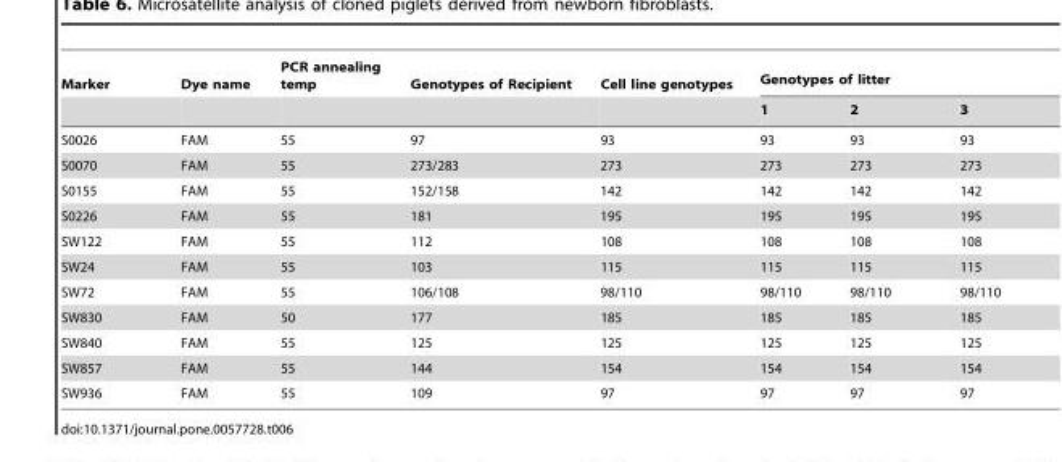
<table><thead><tr><td rowspan="2">Marker</td><td rowspan="2">Dye name</td><td rowspan="2">PCR annealing temp</td><td rowspan="2">Genotypes of Recipient</td><td rowspan="2">Cell line genotypes</td><td colspan="3">Genotypes of litter</td></tr><tr><td>1</td><td>2</td><td>3</td></tr></thead><tbody><tr><td>S0026</td><td>FAM</td><td>55</td><td>97</td><td>93</td><td>93</td><td>93</td><td>93</td></tr><tr><td>S0070</td><td>FAM</td><td>55</td><td>273/283</td><td>273</td><td>273</td><td>273</td><td>273</td></tr><tr><td>S0155</td><td>FAM</td><td>55</td><td>152/158</td><td>142</td><td>142</td><td>142</td><td>142</td></tr><tr><td>S0226</td><td>FAM</td><td>55</td><td>181</td><td>195</td><td>195</td><td>195</td><td>195</td></tr><tr><td>SW122</td><td>FAM</td><td>55</td><td>112</td><td>108</td><td>108</td><td>108</td><td>108</td></tr><tr><td>SW24</td><td>FAM</td><td>55</td><td>103</td><td>115</td><td>115</td><td>115</td><td>115</td></tr><tr><td>SW72</td><td>FAM</td><td>55</td><td>106/108</td><td>98/110</td><td>98/110</td><td>98/110</td><td>98/110</td></tr><tr><td>SW830</td><td>FAM</td><td>50</td><td>177</td><td>185</td><td>185</td><td>185</td><td>185</td></tr><tr><td>SW840</td><td>FAM</td><td>55</td><td>125</td><td>125</td><td>125</td><td>125</td><td>125</td></tr><tr><td>SW857</td><td>FAM</td><td>55</td><td>144</td><td>154</td><td>154</td><td>154</td><td>154</td></tr><tr><td>SW936</td><td>FAM</td><td>55</td><td>109</td><td>97</td><td>97</td><td>97</td><td>97</td></tr></tbody></table>